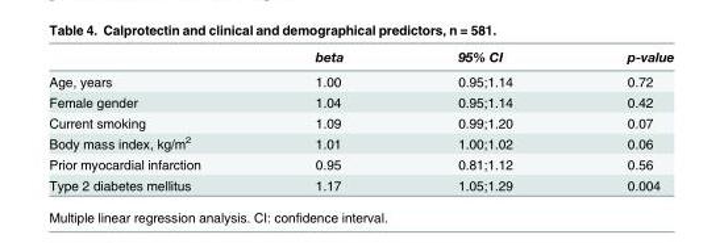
<table><thead><tr><td></td><td>beta</td><td>95% CI</td><td>p-value</td></tr></thead><tbody><tr><td>Age, years</td><td>1.00</td><td>0.95;1.14</td><td>0.72</td></tr><tr><td>Female gender</td><td>1.04</td><td>0.95;1.14</td><td>0.42</td></tr><tr><td>Current smoking</td><td>1.09</td><td>0.99;1.20</td><td>0.07</td></tr><tr><td>Body mass index, kg/m<sup>2</sup></td><td>1.01</td><td>1.00;1.02</td><td>0.06</td></tr><tr><td>Prior myocardial infarction</td><td>0.95</td><td>0.81;1.12</td><td>0.56</td></tr><tr><td>Type 2 diabetes mellitus</td><td>1.17</td><td>1.05;1.29</td><td>0.004</td></tr></tbody></table>